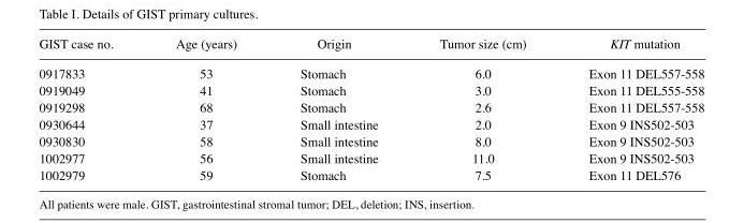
<table><thead><tr><td>GIST case no.</td><td>Age (years)</td><td>Origin</td><td>Tumor size (cm)</td><td>KIT mutation</td></tr></thead><tbody><tr><td>0917833</td><td>53</td><td>Stomach</td><td>6.0</td><td>Exon 11 DEL557-558</td></tr><tr><td>0919049</td><td>41</td><td>Stomach</td><td>3.0</td><td>Exon 11 DEL555-558</td></tr><tr><td>0919298</td><td>68</td><td>Stomach</td><td>2.6</td><td>Exon 11 DEL557-558</td></tr><tr><td>0930644</td><td>37</td><td>Small intestine</td><td>2.0</td><td>Exon 9 INS502-503</td></tr><tr><td>0930830</td><td>58</td><td>Small intestine</td><td>8.0</td><td>Exon 9 INS502-503</td></tr><tr><td>1002977</td><td>56</td><td>Small intestine</td><td>11.0</td><td>Exon 9 INS502-503</td></tr><tr><td>1002979</td><td>59</td><td>Stomach</td><td>7.5</td><td>Exon 11 DEL576</td></tr></tbody></table>